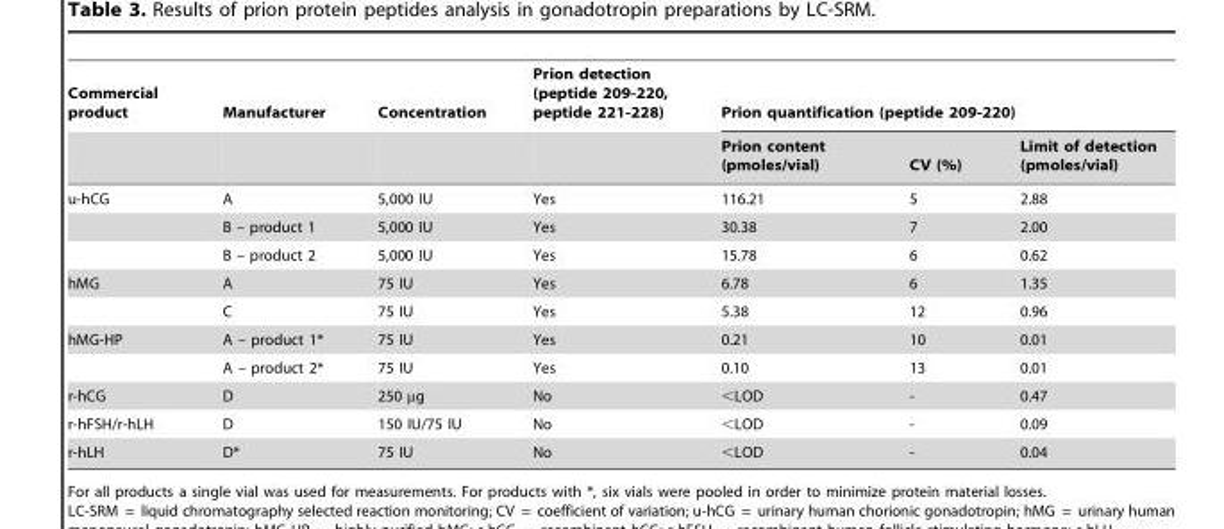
<table><thead><tr><td rowspan="2">Commercial product</td><td rowspan="2">Manufacturer</td><td rowspan="2">Concentration</td><td rowspan="2">Prion detection (peptide 209-220, peptide 221-228)</td><td colspan="3">Prion quantification (peptide 209-220)</td></tr><tr><td>Prion content (pmoles/vial)</td><td>CV (%)</td><td>Limit of detection (pmoles/vial)</td></tr></thead><tbody><tr><td rowspan="3">u-hCG</td><td>A</td><td>5,000 IU</td><td>Yes</td><td>116.21</td><td>5</td><td>2.88</td></tr><tr><td>B – product 1</td><td>5,000 IU</td><td>Yes</td><td>30.38</td><td>7</td><td>2.00</td></tr><tr><td>B – product 2</td><td>5,000 IU</td><td>Yes</td><td>15.78</td><td>6</td><td>0.62</td></tr><tr><td rowspan="2">hMG</td><td>A</td><td>75 IU</td><td>Yes</td><td>6.78</td><td>6</td><td>1.35</td></tr><tr><td>C</td><td>75 IU</td><td>Yes</td><td>5.38</td><td>12</td><td>0.96</td></tr><tr><td rowspan="2">hMG-HP</td><td>A – product 1*</td><td>75 IU</td><td>Yes</td><td>0.21</td><td>10</td><td>0.01</td></tr><tr><td>A – product 2*</td><td>75 IU</td><td>Yes</td><td>0.10</td><td>13</td><td>0.01</td></tr><tr><td>r-hCG</td><td>D</td><td>250 µg</td><td>No</td><td>&lt;LOD</td><td>-</td><td>0.47</td></tr><tr><td>r-hFSH/r-hLH</td><td>D</td><td>150 IU/75 IU</td><td>No</td><td>&lt;LOD</td><td>-</td><td>0.09</td></tr><tr><td>r-hLH</td><td>D*</td><td>75 IU</td><td>No</td><td>&lt;LOD</td><td>-</td><td>0.04</td></tr></tbody></table>